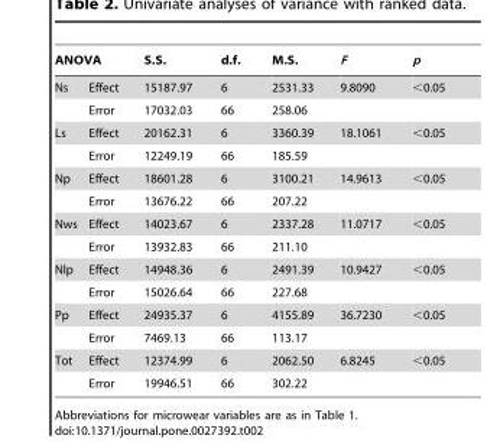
<table><thead><tr><td colspan="2">ANOVA</td><td rowspan="2">S.S. 15187.97</td><td rowspan="2">d.f. 6</td><td rowspan="2">M.S. 2531.33</td><td rowspan="2">F 9.8090</td><td rowspan="2">p &lt;0.05</td></tr><tr><td>Ns</td><td>Effect</td></tr></thead><tbody><tr><td></td><td>Error</td><td>17032.03</td><td>66</td><td>258.06</td><td></td><td></td></tr><tr><td rowspan="2">Ls</td><td>Effect</td><td>20162.31</td><td>6</td><td>3360.39</td><td>18.1061</td><td>&lt;0.05</td></tr><tr><td>Error</td><td>12249.19</td><td>66</td><td>185.59</td><td></td><td></td></tr><tr><td rowspan="2">Np</td><td>Effect</td><td>18601.28</td><td>6</td><td>3100.21</td><td>14.9613</td><td>&lt;0.05</td></tr><tr><td>Error</td><td>13676.22</td><td>66</td><td>207.22</td><td></td><td></td></tr><tr><td rowspan="2">Nws</td><td>Effect</td><td>14023.67</td><td>6</td><td>2337.28</td><td>11.0717</td><td>&lt;0.05</td></tr><tr><td>Error</td><td>13932.83</td><td>66</td><td>211.10</td><td></td><td></td></tr><tr><td rowspan="2">Nlp</td><td>Effect</td><td>14948.36</td><td>6</td><td>2491.39</td><td>10.9427</td><td>&lt;0.05</td></tr><tr><td>Error</td><td>15026.64</td><td>66</td><td>227.68</td><td></td><td></td></tr><tr><td rowspan="2">Pp</td><td>Effect</td><td>24935.37</td><td>6</td><td>4155.89</td><td>36.7230</td><td>&lt;0.05</td></tr><tr><td>Error</td><td>7469.13</td><td>66</td><td>113.17</td><td></td><td></td></tr><tr><td rowspan="2">Tot</td><td>Effect</td><td>12374.99</td><td>6</td><td>2062.50</td><td>6.8245</td><td>&lt;0.05</td></tr><tr><td>Error</td><td>19946.51</td><td>66</td><td>302.22</td><td></td><td></td></tr></tbody></table>